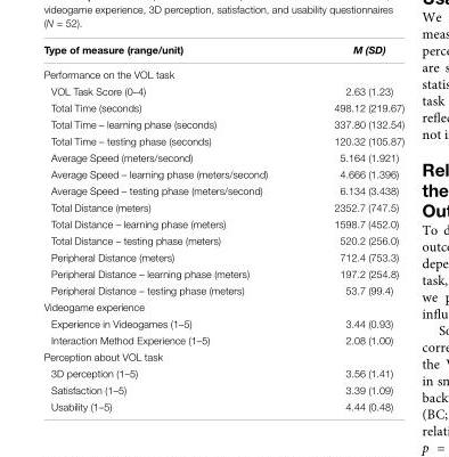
<table><thead><tr><td>Type of measure (range/unit)</td><td>M (SD)</td></tr></thead><tbody><tr><td colspan="2">Performance on the VOL task</td></tr><tr><td>VOL Task Score (0–4)</td><td>2.63 (1.23)</td></tr><tr><td>Total Time (seconds)</td><td>498.12 (219.67)</td></tr><tr><td>Total Time – learning phase (seconds)</td><td>337.80 (132.54)</td></tr><tr><td>Total Time – testing phase (seconds)</td><td>120.32 (105.87)</td></tr><tr><td>Average Speed (meters/second)</td><td>5.164 (1.921)</td></tr><tr><td>Average Speed – learning phase (meters/second)</td><td>4.666 (1.396)</td></tr><tr><td>Average Speed – testing phase (meters/second)</td><td>6.134 (3.438)</td></tr><tr><td>Total Distance (meters)</td><td>2352.7 (747.5)</td></tr><tr><td>Total Distance – learning phase (meters)</td><td>1598.7 (452.0)</td></tr><tr><td>Total Distance – testing phase (meters)</td><td>520.2 (256.0)</td></tr><tr><td>Peripheral Distance (meters)</td><td>712.4 (753.3)</td></tr><tr><td>Peripheral Distance – learning phase (meters)</td><td>197.2 (254.8)</td></tr><tr><td>Peripheral Distance – testing phase (meters)</td><td>53.7 (99.4)</td></tr><tr><td colspan="2">Videogame experience</td></tr><tr><td>Experience in Videogames (1–5)</td><td>3.44 (0.93)</td></tr><tr><td>Interaction Method Experience (1–5)</td><td>2.08 (1.00)</td></tr><tr><td colspan="2">Perception about VOL task</td></tr><tr><td>3D perception (1–5)</td><td>3.56 (1.41)</td></tr><tr><td>Satisfaction (1–5)</td><td>3.39 (1.09)</td></tr><tr><td>Usability (1–5)</td><td>4.44 (0.48)</td></tr></tbody></table>